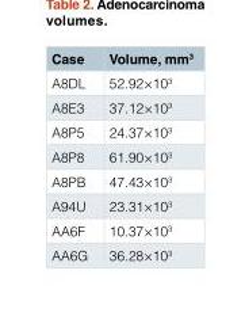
<table><thead><tr><td>Case</td><td>Volume, mm<sup>3</sup></td></tr></thead><tbody><tr><td>A8DL</td><td>52.92×10<sup>3</sup></td></tr><tr><td>A8E3</td><td>37.12×10<sup>3</sup></td></tr><tr><td>A8P5</td><td>24.37×10<sup>3</sup></td></tr><tr><td>A8P8</td><td>61.90×10<sup>3</sup></td></tr><tr><td>A8PB</td><td>47.43×10<sup>3</sup></td></tr><tr><td>A94U</td><td>23.31×10<sup>3</sup></td></tr><tr><td>AA6F</td><td>10.37×10<sup>3</sup></td></tr><tr><td>AA6G</td><td>36.28×10<sup>3</sup></td></tr></tbody></table>